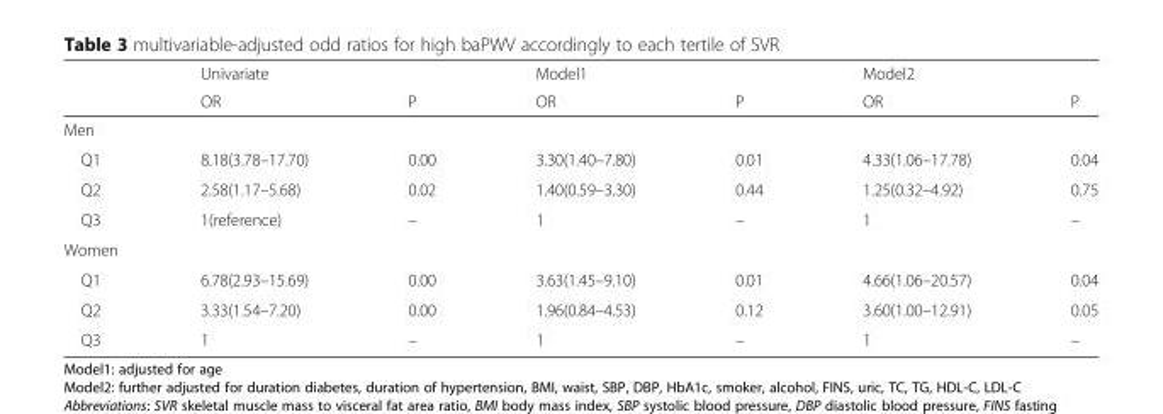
<table><thead><tr><td rowspan="2"></td><td rowspan="2">Univariate OR</td><td rowspan="2">P</td><td rowspan="2">Model1 OR</td><td rowspan="2">P</td><td rowspan="2">Model2 OR</td><td rowspan="2">P</td></tr><tr></tr></thead><tbody><tr><td colspan="7">Men</td></tr><tr><td>Q1</td><td>8.18(3.78–17.70)</td><td>0.00</td><td>3.30(1.40–7.80)</td><td>0.01</td><td>4.33(1.06–17.78)</td><td>0.04</td></tr><tr><td>Q2</td><td>2.58(1.17–5.68)</td><td>0.02</td><td>1.40(0.59–3.30)</td><td>0.44</td><td>1.25(0.32–4.92)</td><td>0.75</td></tr><tr><td>Q3</td><td>1(reference)</td><td>–</td><td>1</td><td>–</td><td>1</td><td>–</td></tr><tr><td colspan="7">Women</td></tr><tr><td>Q1</td><td>6.78(2.93–15.69)</td><td>0.00</td><td>3.63(1.45–9.10)</td><td>0.01</td><td>4.66(1.06–20.57)</td><td>0.04</td></tr><tr><td>Q2</td><td>3.33(1.54–7.20)</td><td>0.00</td><td>1.96(0.84–4.53)</td><td>0.12</td><td>3.60(1.00–12.91)</td><td>0.05</td></tr><tr><td>Q3</td><td>1</td><td>–</td><td>1</td><td>–</td><td>1</td><td>–</td></tr></tbody></table>